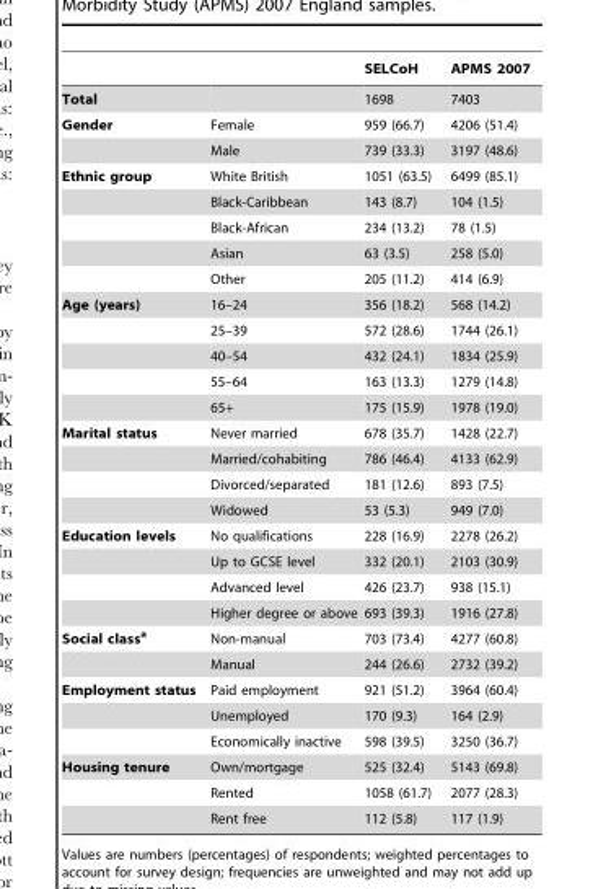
<table><thead><tr><td></td><td></td><td>SELCoH</td><td>APMS 2007</td></tr></thead><tbody><tr><td>Total</td><td></td><td>1698</td><td>7403</td></tr><tr><td rowspan="2">Gender</td><td>Female</td><td>959 (66.7)</td><td>4206 (51.4)</td></tr><tr><td>Male</td><td>739 (33.3)</td><td>3197 (48.6)</td></tr><tr><td rowspan="5">Ethnic group</td><td>White British</td><td>1051 (63.5)</td><td>6499 (85.1)</td></tr><tr><td>Black-Caribbean</td><td>143 (8.7)</td><td>104 (1.5)</td></tr><tr><td>Black-African</td><td>234 (13.2)</td><td>78 (1.5)</td></tr><tr><td>Asian</td><td>63 (3.5)</td><td>258 (5.0)</td></tr><tr><td>Other</td><td>205 (11.2)</td><td>414 (6.9)</td></tr><tr><td rowspan="5">Age (years)</td><td>16–24</td><td>356 (18.2)</td><td>568 (14.2)</td></tr><tr><td>25–39</td><td>572 (28.6)</td><td>1744 (26.1)</td></tr><tr><td>40–54</td><td>432 (24.1)</td><td>1834 (25.9)</td></tr><tr><td>55–64</td><td>163 (13.3)</td><td>1279 (14.8)</td></tr><tr><td>65+</td><td>175 (15.9)</td><td>1978 (19.0)</td></tr><tr><td rowspan="4">Marital status</td><td>Never married</td><td>678 (35.7)</td><td>1428 (22.7)</td></tr><tr><td>Married/cohabiting</td><td>786 (46.4)</td><td>4133 (62.9)</td></tr><tr><td>Divorced/separated</td><td>181 (12.6)</td><td>893 (7.5)</td></tr><tr><td>Widowed</td><td>53 (5.3)</td><td>949 (7.0)</td></tr><tr><td rowspan="4">Education levels</td><td>No qualifications</td><td>228 (16.9)</td><td>2278 (26.2)</td></tr><tr><td>Up to GCSE level</td><td>332 (20.1)</td><td>2103 (30.9)</td></tr><tr><td>Advanced level</td><td>426 (23.7)</td><td>938 (15.1)</td></tr><tr><td>Higher degree or above</td><td>693 (39.3)</td><td>1916 (27.8)</td></tr><tr><td rowspan="2">Social classa</td><td>Non-manual</td><td>703 (73.4)</td><td>4277 (60.8)</td></tr><tr><td>Manual</td><td>244 (26.6)</td><td>2732 (39.2)</td></tr><tr><td rowspan="3">Employment status</td><td>Paid employment</td><td>921 (51.2)</td><td>3964 (60.4)</td></tr><tr><td>Unemployed</td><td>170 (9.3)</td><td>164 (2.9)</td></tr><tr><td>Economically inactive</td><td>598 (39.5)</td><td>3250 (36.7)</td></tr><tr><td rowspan="3">Housing tenure</td><td>Own/mortgage</td><td>525 (32.4)</td><td>5143 (69.8)</td></tr><tr><td>Rented</td><td>1058 (61.7)</td><td>2077 (28.3)</td></tr><tr><td>Rent free</td><td>112 (5.8)</td><td>117 (1.9)</td></tr></tbody></table>